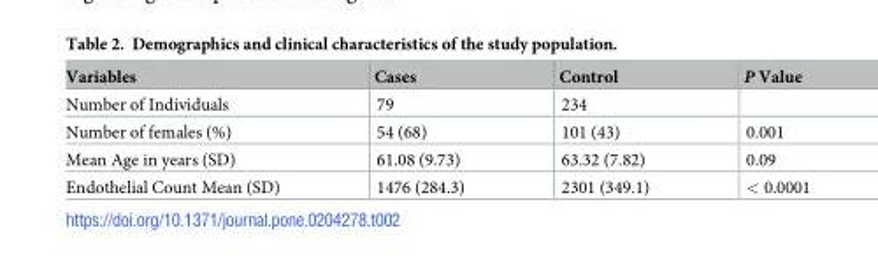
<table><thead><tr><td>Variables</td><td>Cases</td><td>Control</td><td>P Value</td></tr></thead><tbody><tr><td>Number of Individuals</td><td>79</td><td>234</td><td></td></tr><tr><td>Number of females (%)</td><td>54 (68)</td><td>101 (43)</td><td>0.001</td></tr><tr><td>Mean Age in years (SD)</td><td>61.08 (9.73)</td><td>63.32 (7.82)</td><td>0.09</td></tr><tr><td>Endothelial Count Mean (SD)</td><td>1476 (284.3)</td><td>2301 (349.1)</td><td>&lt; 0.0001</td></tr></tbody></table>